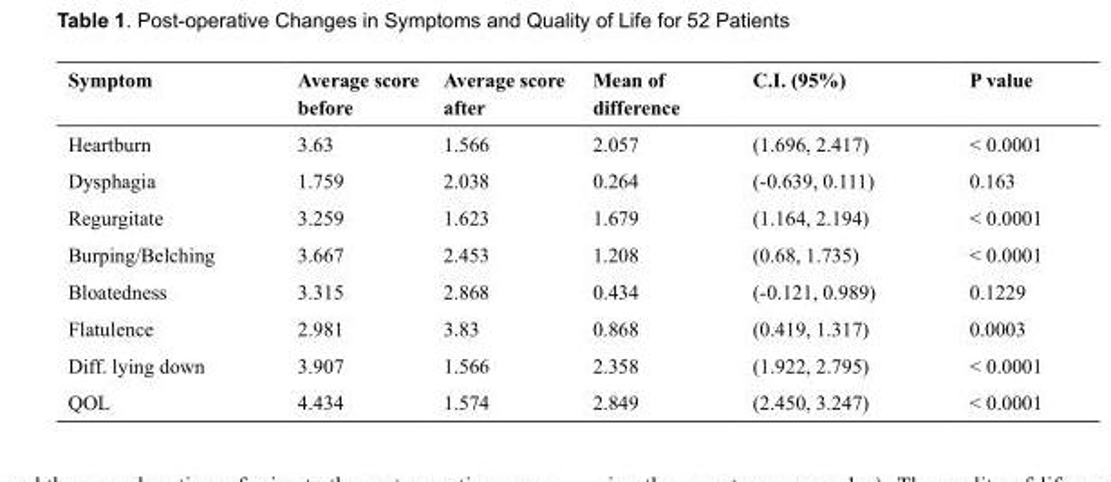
<table><thead><tr><td>Symptom</td><td>Average score before</td><td>Average score after</td><td>Mean of difference</td><td>C.I. (95%)</td><td>P value</td></tr></thead><tbody><tr><td>Heartburn</td><td>3.63</td><td>1.566</td><td>2.057</td><td>(1.696, 2.417)</td><td>&lt; 0.0001</td></tr><tr><td>Dysphagia</td><td>1.759</td><td>2.038</td><td>0.264</td><td>(-0.639, 0.111)</td><td>0.163</td></tr><tr><td>Regurgitate</td><td>3.259</td><td>1.623</td><td>1.679</td><td>(1.164, 2.194)</td><td>&lt; 0.0001</td></tr><tr><td>Burping/Belching</td><td>3.667</td><td>2.453</td><td>1.208</td><td>(0.68, 1.735)</td><td>&lt; 0.0001</td></tr><tr><td>Bloatedness</td><td>3.315</td><td>2.868</td><td>0.434</td><td>(-0.121, 0.989)</td><td>0.1229</td></tr><tr><td>Flatulence</td><td>2.981</td><td>3.83</td><td>0.868</td><td>(0.419, 1.317)</td><td>0.0003</td></tr><tr><td>Diff. lying down</td><td>3.907</td><td>1.566</td><td>2.358</td><td>(1.922, 2.795)</td><td>&lt; 0.0001</td></tr><tr><td>QOL</td><td>4.434</td><td>1.574</td><td>2.849</td><td>(2.450, 3.247)</td><td>&lt; 0.0001</td></tr></tbody></table>